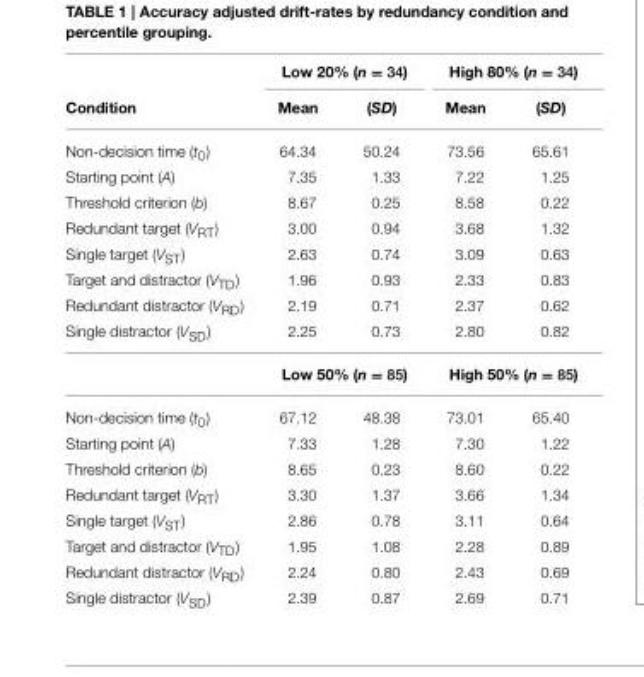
<table><thead><tr><td rowspan="2">Condition</td><td colspan="2">Low 20% (n = 34)</td><td colspan="2">High 80% (n = 34)</td></tr><tr><td>Mean</td><td>(SD)</td><td>Mean</td><td>(SD)</td></tr></thead><tbody><tr><td>Non-decision time (t<sub>0</sub>)</td><td>64.34</td><td>50.24</td><td>73.56</td><td>65.61</td></tr><tr><td>Starting point (A)</td><td>7.35</td><td>1.33</td><td>7.22</td><td>1.25</td></tr><tr><td>Threshold criterion (b)</td><td>8.67</td><td>0.25</td><td>8.58</td><td>0.22</td></tr><tr><td>Redundant target (V<sub>RT</sub>)</td><td>3.00</td><td>0.94</td><td>3.68</td><td>1.32</td></tr><tr><td>Single target (V<sub>ST</sub>)</td><td>2.63</td><td>0.74</td><td>3.09</td><td>0.63</td></tr><tr><td>Target and distractor (V<sub>TD</sub>)</td><td>1.96</td><td>0.93</td><td>2.33</td><td>0.83</td></tr><tr><td>Redundant distractor (V<sub>RD</sub>)</td><td>2.19</td><td>0.71</td><td>2.37</td><td>0.62</td></tr><tr><td rowspan="2">Single distractor (V<sub>SD</sub>)</td><td>2.25</td><td>0.73</td><td>2.80</td><td>0.82</td></tr><tr><td colspan="2">Low 50% (n = 85)</td><td colspan="2">High 50% (n = 85)</td></tr><tr><td>Non-decision time (t<sub>0</sub>)</td><td>67.12</td><td>48.38</td><td>73.01</td><td>65.40</td></tr><tr><td>Starting point (A)</td><td>7.33</td><td>1.28</td><td>7.30</td><td>1.22</td></tr><tr><td>Threshold criterion (b)</td><td>8.65</td><td>0.23</td><td>8.60</td><td>0.22</td></tr><tr><td>Redundant target (V<sub>RT</sub>)</td><td>3.30</td><td>1.37</td><td>3.66</td><td>1.34</td></tr><tr><td>Single target (V<sub>ST</sub>)</td><td>2.86</td><td>0.78</td><td>3.11</td><td>0.64</td></tr><tr><td>Target and distractor (V<sub>TD</sub>)</td><td>1.95</td><td>1.08</td><td>2.28</td><td>0.89</td></tr><tr><td>Redundant distractor (V<sub>RD</sub>)</td><td>2.24</td><td>0.80</td><td>2.43</td><td>0.69</td></tr><tr><td>Single distractor (V<sub>SD</sub>)</td><td>2.39</td><td>0.87</td><td>2.69</td><td>0.71</td></tr></tbody></table>